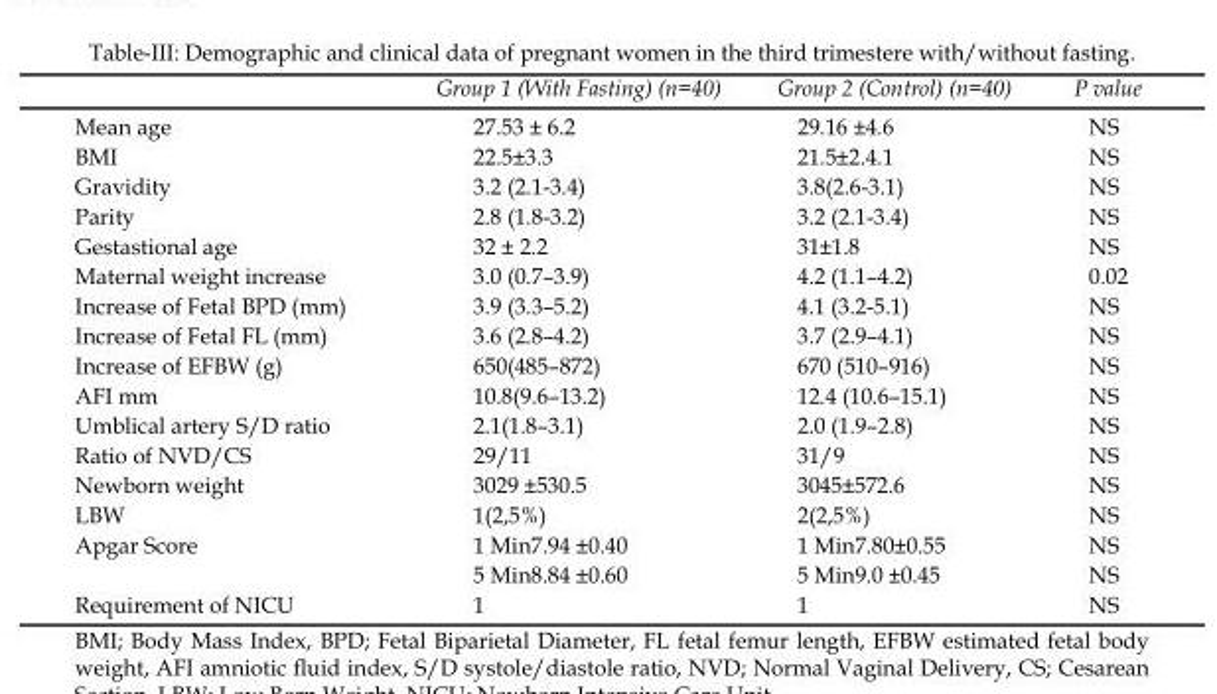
<table><thead><tr><td></td><td>Group 1 (With Fasting) (n=40)</td><td>Group 2 (Control) (n=40)</td><td>P value</td></tr></thead><tbody><tr><td>Mean age</td><td>27.53 ± 6.2</td><td>29.16 ±4.6</td><td>NS</td></tr><tr><td>BMI</td><td>22.5±3.3</td><td>21.5±2.4.1</td><td>NS</td></tr><tr><td>Gravidity</td><td>3.2 (2.1-3.4)</td><td>3.8(2.6-3.1)</td><td>NS</td></tr><tr><td>Parity</td><td>2.8 (1.8-3.2)</td><td>3.2 (2.1-3.4)</td><td>NS</td></tr><tr><td>Gestastional age</td><td>32 ± 2.2</td><td>31±1.8</td><td>NS</td></tr><tr><td>Maternal weight increase</td><td>3.0 (0.7–3.9)</td><td>4.2 (1.1–4.2)</td><td>0.02</td></tr><tr><td>Increase of Fetal BPD (mm)</td><td>3.9 (3.3–5.2)</td><td>4.1 (3.2-5.1)</td><td>NS</td></tr><tr><td>Increase of Fetal FL (mm)</td><td>3.6 (2.8–4.2)</td><td>3.7 (2.9–4.1)</td><td>NS</td></tr><tr><td>Increase of EFBW (g)</td><td>650(485–872)</td><td>670 (510–916)</td><td>NS</td></tr><tr><td>AFI mm</td><td>10.8(9.6–13.2)</td><td>12.4 (10.6–15.1)</td><td>NS</td></tr><tr><td>Umblical artery S/D ratio</td><td>2.1(1.8–3.1)</td><td>2.0 (1.9–2.8)</td><td>NS</td></tr><tr><td>Ratio of NVD/CS</td><td>29/11</td><td>31/9</td><td>NS</td></tr><tr><td>Newborn weight</td><td>3029 ±530.5</td><td>3045±572.6</td><td>NS</td></tr><tr><td>LBW</td><td>1(2,5%)</td><td>2(2,5%)</td><td>NS</td></tr><tr><td rowspan="2">Apgar Score</td><td>1 Min7.94 ±0.40</td><td>1 Min7.80±0.55</td><td>NS</td></tr><tr><td>5 Min8.84 ±0.60</td><td>5 Min9.0 ±0.45</td><td>NS</td></tr><tr><td>Requirement of NICU</td><td>1</td><td>1</td><td>NS</td></tr></tbody></table>